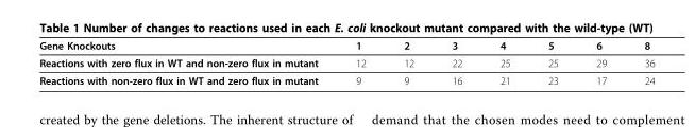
<table><thead><tr><td>Gene Knockouts</td><td>1</td><td>2</td><td>3</td><td>4</td><td>5</td><td>6</td><td>8</td></tr></thead><tbody><tr><td>Reactions with zero flux in WT and non-zero flux in mutant</td><td>12</td><td>12</td><td>22</td><td>25</td><td>25</td><td>29</td><td>36</td></tr><tr><td>Reactions with non-zero flux in WT and zero flux in mutant</td><td>9</td><td>9</td><td>16</td><td>21</td><td>23</td><td>17</td><td>24</td></tr></tbody></table>